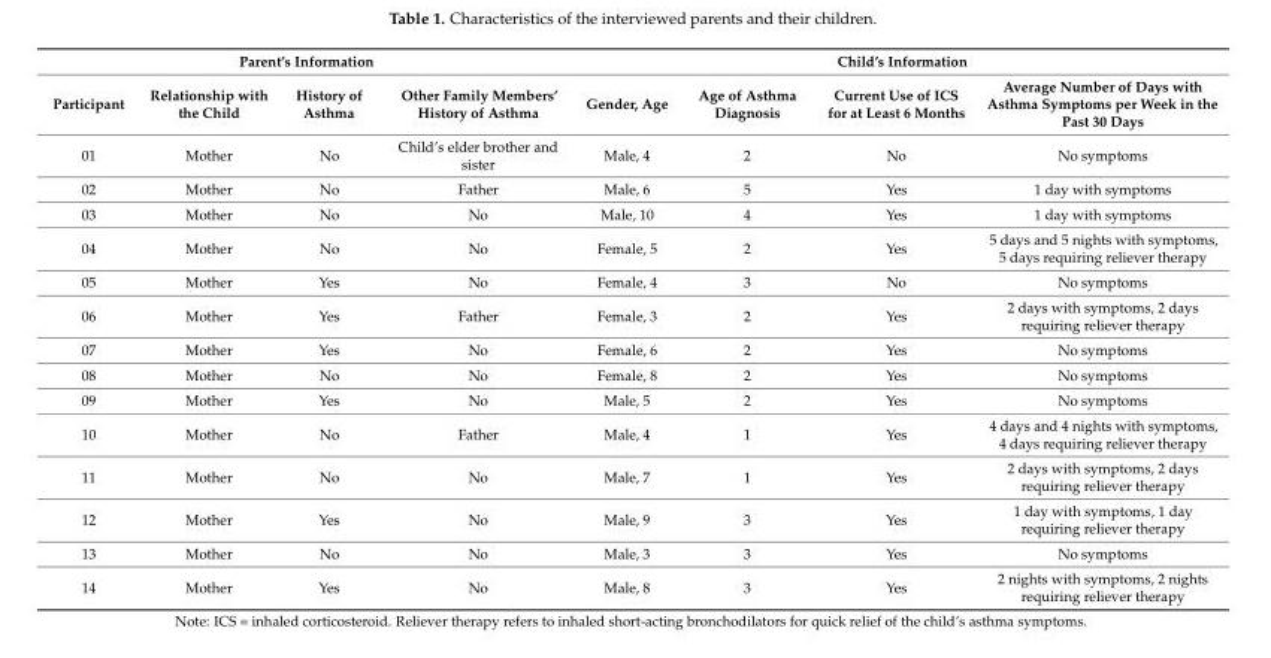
<table><thead><tr><td colspan="4">Parent’s Information</td><td colspan="4">Child’s Information</td></tr><tr><td>Participant</td><td>Relationship with the Child</td><td>History of Asthma</td><td>Other Family Members’ History of Asthma</td><td>Gender, Age</td><td>Age of Asthma Diagnosis</td><td>Current Use of ICS for at Least 6 Months</td><td>Average Number of Days with Asthma Symptoms per Week in the Past 30 Days</td></tr></thead><tbody><tr><td>01</td><td>Mother</td><td>No</td><td>Child’s elder brother and sister</td><td>Male, 4</td><td>2</td><td>No</td><td>No symptoms</td></tr><tr><td>02</td><td>Mother</td><td>No</td><td>Father</td><td>Male, 6</td><td>5</td><td>Yes</td><td>1 day with symptoms</td></tr><tr><td>03</td><td>Mother</td><td>No</td><td>No</td><td>Male, 10</td><td>4</td><td>Yes</td><td>1 day with symptoms</td></tr><tr><td>04</td><td>Mother</td><td>No</td><td>No</td><td>Female, 5</td><td>2</td><td>Yes</td><td>5 days and 5 nights with symptoms, 5 days requiring reliever therapy</td></tr><tr><td>05</td><td>Mother</td><td>Yes</td><td>No</td><td>Female, 4</td><td>3</td><td>No</td><td>No symptoms</td></tr><tr><td>06</td><td>Mother</td><td>Yes</td><td>Father</td><td>Female, 3</td><td>2</td><td>Yes</td><td>2 days with symptoms, 2 days requiring reliever therapy</td></tr><tr><td>07</td><td>Mother</td><td>Yes</td><td>No</td><td>Female, 6</td><td>2</td><td>Yes</td><td>No symptoms</td></tr><tr><td>08</td><td>Mother</td><td>No</td><td>No</td><td>Female, 8</td><td>2</td><td>Yes</td><td>No symptoms</td></tr><tr><td>09</td><td>Mother</td><td>Yes</td><td>No</td><td>Male, 5</td><td>2</td><td>Yes</td><td>No symptoms</td></tr><tr><td>10</td><td>Mother</td><td>No</td><td>Father</td><td>Male, 4</td><td>1</td><td>Yes</td><td>4 days and 4 nights with symptoms, 4 days requiring reliever therapy</td></tr><tr><td>11</td><td>Mother</td><td>No</td><td>No</td><td>Male, 7</td><td>1</td><td>Yes</td><td>2 days with symptoms, 2 days requiring reliever therapy</td></tr><tr><td>12</td><td>Mother</td><td>Yes</td><td>No</td><td>Male, 9</td><td>3</td><td>Yes</td><td>1 day with symptoms, 1 day requiring reliever therapy</td></tr><tr><td>13</td><td>Mother</td><td>No</td><td>No</td><td>Male, 3</td><td>3</td><td>Yes</td><td>No symptoms</td></tr><tr><td>14</td><td>Mother</td><td>Yes</td><td>No</td><td>Male, 8</td><td>3</td><td>Yes</td><td>2 nights with symptoms, 2 nights requiring reliever therapy</td></tr></tbody></table>